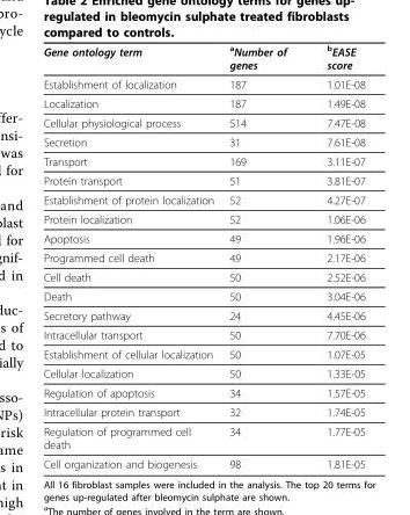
<table><thead><tr><td>Gene ontology term</td><td><sup>a</sup>Number of genes</td><td><sup>b</sup>EASE score</td></tr></thead><tbody><tr><td>Establishment of localization</td><td>187</td><td>1.01E-08</td></tr><tr><td>Localization</td><td>187</td><td>1.49E-08</td></tr><tr><td>Cellular physiological process</td><td>514</td><td>7.47E-08</td></tr><tr><td>Secretion</td><td>31</td><td>7.61E-08</td></tr><tr><td>Transport</td><td>169</td><td>3.11E-07</td></tr><tr><td>Protein transport</td><td>51</td><td>3.81E-07</td></tr><tr><td>Establishment of protein localization</td><td>52</td><td>4.27E-07</td></tr><tr><td>Protein localization</td><td>52</td><td>1.06E-06</td></tr><tr><td>Apoptosis</td><td>49</td><td>1.96E-06</td></tr><tr><td>Programmed cell death</td><td>49</td><td>2.17E-06</td></tr><tr><td>Cell death</td><td>50</td><td>2.52E-06</td></tr><tr><td>Death</td><td>50</td><td>3.04E-06</td></tr><tr><td>Secretory pathway</td><td>24</td><td>4.45E-06</td></tr><tr><td>Intracellular transport</td><td>50</td><td>7.70E-06</td></tr><tr><td>Establishment of cellular localization</td><td>50</td><td>1.07E-05</td></tr><tr><td>Cellular localization</td><td>50</td><td>1.33E-05</td></tr><tr><td>Regulation of apoptosis</td><td>34</td><td>1.57E-05</td></tr><tr><td>Intracellular protein transport</td><td>32</td><td>1.74E-05</td></tr><tr><td>Regulation of programmed cell death</td><td>34</td><td>1.77E-05</td></tr><tr><td>Cell organization and biogenesis</td><td>98</td><td>1.81E-05</td></tr></tbody></table>